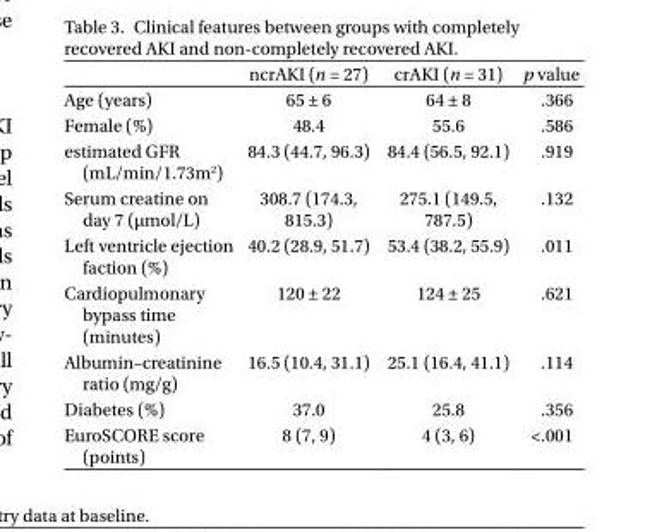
<table><thead><tr><td></td><td>ncrAKI (n = 27)</td><td>crAKI (n = 31)</td><td>p value</td></tr></thead><tbody><tr><td>Age (years)</td><td>65 ± 6</td><td>64 ± 8</td><td>.366</td></tr><tr><td>Female (%)</td><td>48.4</td><td>55.6</td><td>.586</td></tr><tr><td>estimated GFR (mL/min/1.73m<sup>2</sup>)</td><td>84.3 (44.7, 96.3)</td><td>84.4 (56.5, 92.1)</td><td>.919</td></tr><tr><td>Serum creatine on day 7 (µmol/L)</td><td>308.7 (174.3, 815.3)</td><td>275.1 (149.5, 787.5)</td><td>.132</td></tr><tr><td>Left ventricle ejection faction (%)</td><td>40.2 (28.9, 51.7)</td><td>53.4 (38.2, 55.9)</td><td>.011</td></tr><tr><td>Cardiopulmonary bypass time (minutes)</td><td>120 ± 22</td><td>124 ± 25</td><td>.621</td></tr><tr><td>Albumin–creatinine ratio (mg/g)</td><td>16.5 (10.4, 31.1)</td><td>25.1 (16.4, 41.1)</td><td>.114</td></tr><tr><td>Diabetes (%)</td><td>37.0</td><td>25.8</td><td>.356</td></tr><tr><td>EuroSCORE score (points)</td><td>8 (7, 9)</td><td>4 (3, 6)</td><td>&lt;.001</td></tr></tbody></table>